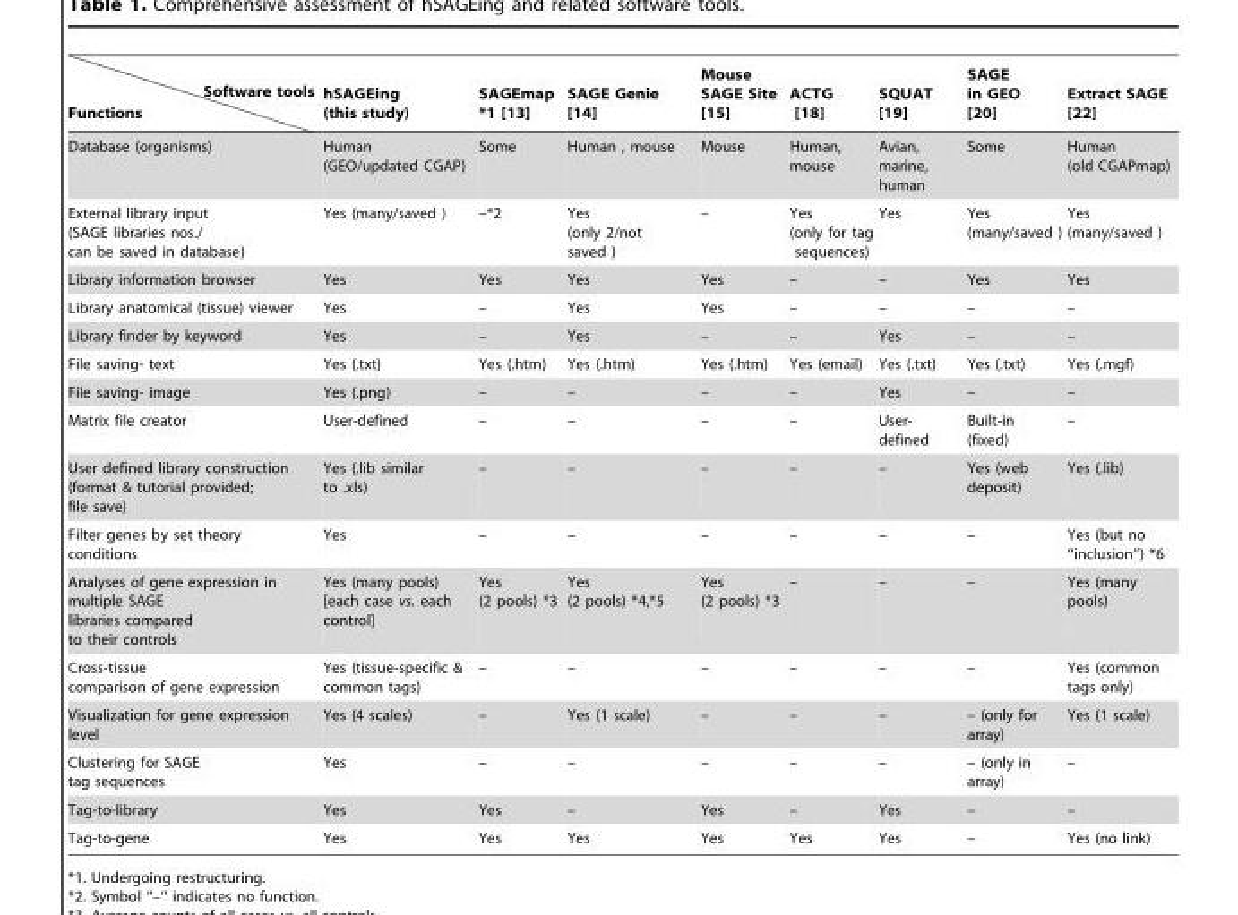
<table><thead><tr><td>Software tools Functions</td><td>hSAGEing (this study)</td><td>SAGEmap *1 [13]</td><td>SAGE Genie [14]</td><td>Mouse SAGE Site [15]</td><td>ACTG [18]</td><td>SQUAT [19]</td><td>SAGE in GEO [20]</td><td>Extract SAGE [22]</td></tr></thead><tbody><tr><td>Database (organisms)</td><td>Human (GEO/updated CGAP)</td><td>Some</td><td>Human , mouse</td><td>Mouse</td><td>Human, mouse</td><td>Avian, marine, human</td><td>Some</td><td>Human (old CGAPmap)</td></tr><tr><td>External library input (SAGE libraries nos./ can be saved in database)</td><td>Yes (many/saved )</td><td>–*2</td><td>Yes (only 2/not saved )</td><td>–</td><td>Yes (only for tag sequences)</td><td>Yes</td><td>Yes (many/saved )</td><td>Yes (many/saved )</td></tr><tr><td>Library information browser</td><td>Yes</td><td>Yes</td><td>Yes</td><td>Yes</td><td>–</td><td>–</td><td>Yes</td><td>Yes</td></tr><tr><td>Library anatomical (tissue) viewer</td><td>Yes</td><td>–</td><td>Yes</td><td>Yes</td><td>–</td><td>–</td><td>–</td><td>–</td></tr><tr><td>Library finder by keyword</td><td>Yes</td><td>–</td><td>Yes</td><td>–</td><td>–</td><td>Yes</td><td>–</td><td>–</td></tr><tr><td>File saving- text</td><td>Yes (.txt)</td><td>Yes (.htm)</td><td>Yes (.htm)</td><td>Yes (.htm)</td><td>Yes (email)</td><td>Yes (.txt)</td><td>Yes (.txt)</td><td>Yes (.mgf)</td></tr><tr><td>File saving- image</td><td>Yes (.png)</td><td>–</td><td>–</td><td>–</td><td>–</td><td>Yes</td><td>–</td><td>–</td></tr><tr><td>Matrix file creator</td><td>User-defined</td><td>–</td><td>–</td><td>–</td><td>–</td><td>User- defined</td><td>Built-in (fixed)</td><td>–</td></tr><tr><td>User defined library construction (format &amp; tutorial provided; file save)</td><td>Yes (.lib similar to .xls)</td><td>–</td><td>–</td><td>–</td><td>–</td><td>–</td><td>Yes (web deposit)</td><td>Yes (.lib)</td></tr><tr><td>Filter genes by set theory conditions</td><td>Yes</td><td>–</td><td>–</td><td>–</td><td>–</td><td>–</td><td>–</td><td>Yes (but no ‘‘inclusion’’) *6</td></tr><tr><td>Analyses of gene expression in multiple SAGE libraries compared to their controls</td><td>Yes (many pools) [each case vs. each control]</td><td>Yes (2 pools) *3</td><td>Yes (2 pools) *4,*5</td><td>Yes (2 pools) *3</td><td>–</td><td>–</td><td>–</td><td>Yes (many pools)</td></tr><tr><td>Cross-tissue comparison of gene expression</td><td>Yes (tissue-specific &amp; common tags)</td><td>–</td><td>–</td><td>–</td><td>–</td><td>–</td><td>–</td><td>Yes (common tags only)</td></tr><tr><td>Visualization for gene expression level</td><td>Yes (4 scales)</td><td>–</td><td>Yes (1 scale)</td><td>–</td><td>–</td><td>–</td><td>– (only for array)</td><td>Yes (1 scale)</td></tr><tr><td>Clustering for SAGE tag sequences</td><td>Yes</td><td>–</td><td>–</td><td>–</td><td>–</td><td>–</td><td>– (only in array)</td><td>–</td></tr><tr><td>Tag-to-library</td><td>Yes</td><td>Yes</td><td>–</td><td>Yes</td><td>–</td><td>Yes</td><td>–</td><td>–</td></tr><tr><td>Tag-to-gene</td><td>Yes</td><td>Yes</td><td>Yes</td><td>Yes</td><td>Yes</td><td>Yes</td><td>–</td><td>Yes (no link)</td></tr></tbody></table>